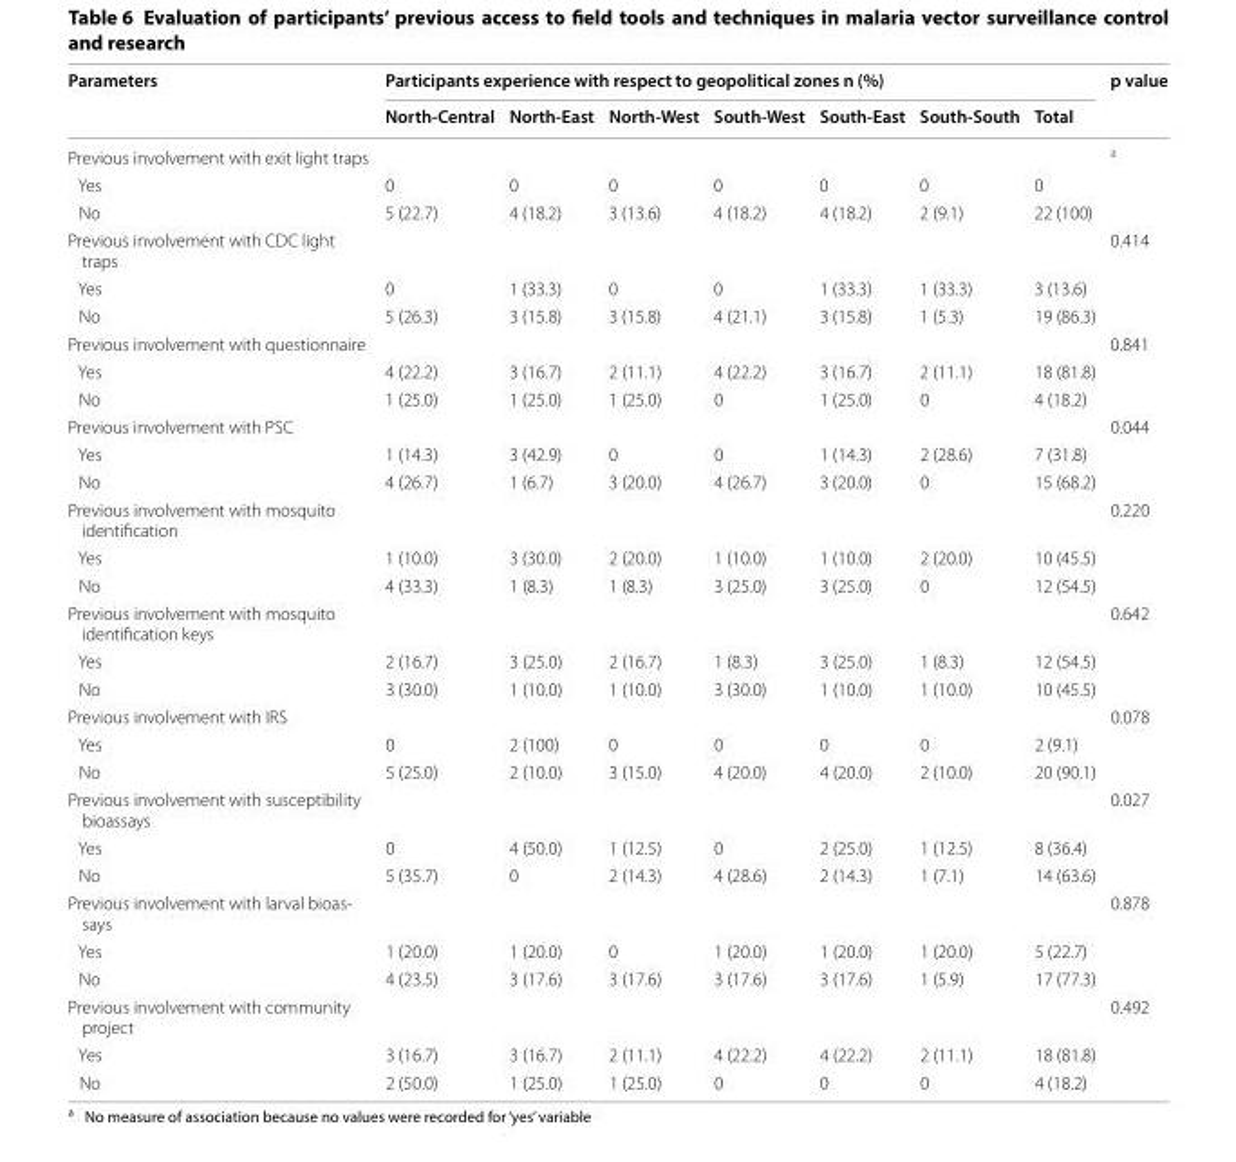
<table><thead><tr><td rowspan="2">Parameters</td><td colspan="7">Participants experience with respect to geopolitical zones n (%)</td><td rowspan="2">p value</td></tr><tr><td>North‑Central</td><td>North‑East</td><td>North‑West</td><td>South‑West</td><td>South‑East</td><td>South‑South</td><td>Total</td></tr></thead><tbody><tr><td>Previous involvement with exit light traps</td><td></td><td></td><td></td><td></td><td></td><td></td><td></td><td><sup>a</sup></td></tr><tr><td>Yes</td><td>0</td><td>0</td><td>0</td><td>0</td><td>0</td><td>0</td><td>0</td><td></td></tr><tr><td>No</td><td>5 (22.7)</td><td>4 (18.2)</td><td>3 (13.6)</td><td>4 (18.2)</td><td>4 (18.2)</td><td>2 (9.1)</td><td>22 (100)</td><td></td></tr><tr><td>Previous involvement with CDC light traps</td><td></td><td></td><td></td><td></td><td></td><td></td><td></td><td>0.414</td></tr><tr><td>Yes</td><td>0</td><td>1 (33.3)</td><td>0</td><td>0</td><td>1 (33.3)</td><td>1 (33.3)</td><td>3 (13.6)</td><td></td></tr><tr><td>No</td><td>5 (26.3)</td><td>3 (15.8)</td><td>3 (15.8)</td><td>4 (21.1)</td><td>3 (15.8)</td><td>1 (5.3)</td><td>19 (86.3)</td><td></td></tr><tr><td>Previous involvement with questionnaire</td><td></td><td></td><td></td><td></td><td></td><td></td><td></td><td>0.841</td></tr><tr><td>Yes</td><td>4 (22.2)</td><td>3 (16.7)</td><td>2 (11.1)</td><td>4 (22.2)</td><td>3 (16.7)</td><td>2 (11.1)</td><td>18 (81.8)</td><td></td></tr><tr><td>No</td><td>1 (25.0)</td><td>1 (25.0)</td><td>1 (25.0)</td><td>0</td><td>1 (25.0)</td><td>0</td><td>4 (18.2)</td><td></td></tr><tr><td>Previous involvement with PSC</td><td></td><td></td><td></td><td></td><td></td><td></td><td></td><td>0.044</td></tr><tr><td>Yes</td><td>1 (14.3)</td><td>3 (42.9)</td><td>0</td><td>0</td><td>1 (14.3)</td><td>2 (28.6)</td><td>7 (31.8)</td><td></td></tr><tr><td>No</td><td>4 (26.7)</td><td>1 (6.7)</td><td>3 (20.0)</td><td>4 (26.7)</td><td>3 (20.0)</td><td>0</td><td>15 (68.2)</td><td></td></tr><tr><td>Previous involvement with mosquito identification</td><td></td><td></td><td></td><td></td><td></td><td></td><td></td><td>0.220</td></tr><tr><td>Yes</td><td>1 (10.0)</td><td>3 (30.0)</td><td>2 (20.0)</td><td>1 (10.0)</td><td>1 (10.0)</td><td>2 (20.0)</td><td>10 (45.5)</td><td></td></tr><tr><td>No</td><td>4 (33.3)</td><td>1 (8.3)</td><td>1 (8.3)</td><td>3 (25.0)</td><td>3 (25.0)</td><td>0</td><td>12 (54.5)</td><td></td></tr><tr><td>Previous involvement with mosquito identification keys</td><td></td><td></td><td></td><td></td><td></td><td></td><td></td><td>0.642</td></tr><tr><td>Yes</td><td>2 (16.7)</td><td>3 (25.0)</td><td>2 (16.7)</td><td>1 (8.3)</td><td>3 (25.0)</td><td>1 (8.3)</td><td>12 (54.5)</td><td></td></tr><tr><td>No</td><td>3 (30.0)</td><td>1 (10.0)</td><td>1 (10.0)</td><td>3 (30.0)</td><td>1 (10.0)</td><td>1 (10.0)</td><td>10 (45.5)</td><td></td></tr><tr><td>Previous involvement with IRS</td><td></td><td></td><td></td><td></td><td></td><td></td><td></td><td>0.078</td></tr><tr><td>Yes</td><td>0</td><td>2 (100)</td><td>0</td><td>0</td><td>0</td><td>0</td><td>2 (9.1)</td><td></td></tr><tr><td>No</td><td>5 (25.0)</td><td>2 (10.0)</td><td>3 (15.0)</td><td>4 (20.0)</td><td>4 (20.0)</td><td>2 (10.0)</td><td>20 (90.1)</td><td></td></tr><tr><td>Previous involvement with susceptibility bioassays</td><td></td><td></td><td></td><td></td><td></td><td></td><td></td><td>0.027</td></tr><tr><td>Yes</td><td>0</td><td>4 (50.0)</td><td>1 (12.5)</td><td>0</td><td>2 (25.0)</td><td>1 (12.5)</td><td>8 (36.4)</td><td></td></tr><tr><td>No</td><td>5 (35.7)</td><td>0</td><td>2 (14.3)</td><td>4 (28.6)</td><td>2 (14.3)</td><td>1 (7.1)</td><td>14 (63.6)</td><td></td></tr><tr><td>Previous involvement with larval bioas- says</td><td></td><td></td><td></td><td></td><td></td><td></td><td></td><td>0.878</td></tr><tr><td>Yes</td><td>1 (20.0)</td><td>1 (20.0)</td><td>0</td><td>1 (20.0)</td><td>1 (20.0)</td><td>1 (20.0)</td><td>5 (22.7)</td><td></td></tr><tr><td>No</td><td>4 (23.5)</td><td>3 (17.6)</td><td>3 (17.6)</td><td>3 (17.6)</td><td>3 (17.6)</td><td>1 (5.9)</td><td>17 (77.3)</td><td></td></tr><tr><td>Previous involvement with community project</td><td></td><td></td><td></td><td></td><td></td><td></td><td></td><td>0.492</td></tr><tr><td>Yes</td><td>3 (16.7)</td><td>3 (16.7)</td><td>2 (11.1)</td><td>4 (22.2)</td><td>4 (22.2)</td><td>2 (11.1)</td><td>18 (81.8)</td><td></td></tr><tr><td>No</td><td>2 (50.0)</td><td>1 (25.0)</td><td>1 (25.0)</td><td>0</td><td>0</td><td>0</td><td>4 (18.2)</td><td></td></tr></tbody></table>